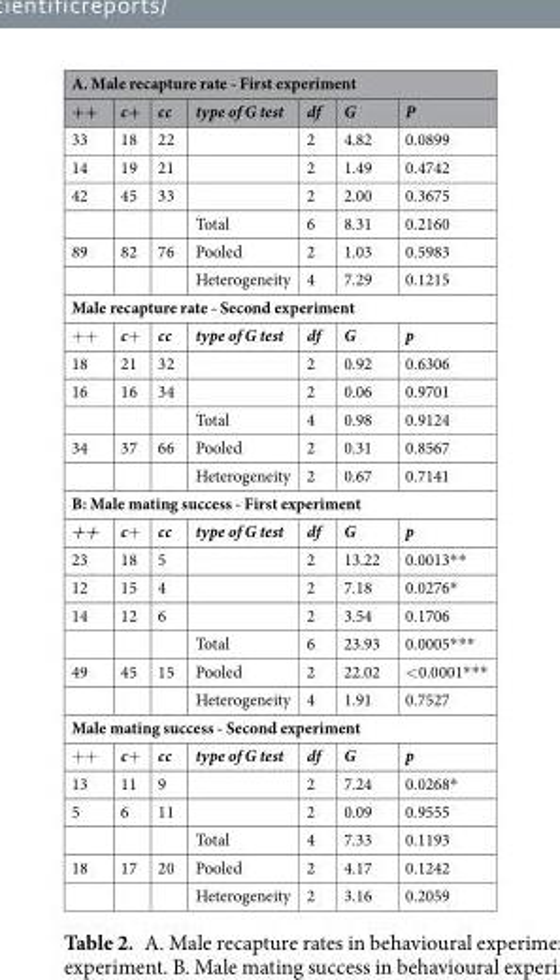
<table><thead><tr><td colspan="7">A. Male recapture rate - First experiment</td></tr><tr><td>++</td><td>c+</td><td>cc</td><td>type of G test</td><td>df</td><td>G</td><td>P</td></tr></thead><tbody><tr><td>33</td><td>18</td><td>22</td><td></td><td>2</td><td>4.82</td><td>0.0899</td></tr><tr><td>14</td><td>19</td><td>21</td><td></td><td>2</td><td>1.49</td><td>0.4742</td></tr><tr><td rowspan="2">42</td><td>45</td><td>33</td><td></td><td>2</td><td>2.00</td><td>0.3675</td></tr><tr><td></td><td></td><td>Total</td><td>6</td><td>8.31</td><td>0.2160</td></tr><tr><td rowspan="2">89</td><td>82</td><td>76</td><td>Pooled</td><td>2</td><td>1.03</td><td>0.5983</td></tr><tr><td></td><td></td><td>Heterogeneity</td><td>4</td><td>7.29</td><td>0.1215</td></tr><tr><td colspan="7">Male recapture rate - Second experiment</td></tr><tr><td>++</td><td>c+</td><td>cc</td><td>type of G test</td><td>df</td><td>G</td><td>p</td></tr><tr><td>18</td><td>21</td><td>32</td><td></td><td>2</td><td>0.92</td><td>0.6306</td></tr><tr><td rowspan="2">16</td><td>16</td><td>34</td><td></td><td>2</td><td>0.06</td><td>0.9701</td></tr><tr><td></td><td></td><td>Total</td><td>4</td><td>0.98</td><td>0.9124</td></tr><tr><td rowspan="2">34</td><td>37</td><td>66</td><td>Pooled</td><td>2</td><td>0.31</td><td>0.8567</td></tr><tr><td></td><td></td><td>Heterogeneity</td><td>2</td><td>0.67</td><td>0.7141</td></tr><tr><td colspan="7">B: Male mating success - First experiment</td></tr><tr><td>++</td><td>c+</td><td>cc</td><td>type of G test</td><td>df</td><td>G</td><td>p</td></tr><tr><td>23</td><td>18</td><td>5</td><td></td><td>2</td><td>13.22</td><td>0.0013**</td></tr><tr><td>12</td><td>15</td><td>4</td><td></td><td>2</td><td>7.18</td><td>0.0276*</td></tr><tr><td rowspan="2">14</td><td>12</td><td>6</td><td></td><td>2</td><td>3.54</td><td>0.1706</td></tr><tr><td></td><td></td><td>Total</td><td>6</td><td>23.93</td><td>0.0005***</td></tr><tr><td rowspan="2">49</td><td>45</td><td>15</td><td>Pooled</td><td>2</td><td>22.02</td><td>&lt;0.0001***</td></tr><tr><td></td><td></td><td>Heterogeneity</td><td>4</td><td>1.91</td><td>0.7527</td></tr><tr><td colspan="7">Male mating success - Second experiment</td></tr><tr><td>++</td><td>c+</td><td>cc</td><td>type of G test</td><td>df</td><td>G</td><td>p</td></tr><tr><td>13</td><td>11</td><td>9</td><td></td><td>2</td><td>7.24</td><td>0.0268*</td></tr><tr><td rowspan="2">5</td><td>6</td><td>11</td><td></td><td>2</td><td>0.09</td><td>0.9555</td></tr><tr><td></td><td></td><td>Total</td><td>4</td><td>7.33</td><td>0.1193</td></tr><tr><td rowspan="2">18</td><td>17</td><td>20</td><td>Pooled</td><td>2</td><td>4.17</td><td>0.1242</td></tr><tr><td></td><td></td><td>Heterogeneity</td><td>2</td><td>3.16</td><td>0.2059</td></tr></tbody></table>